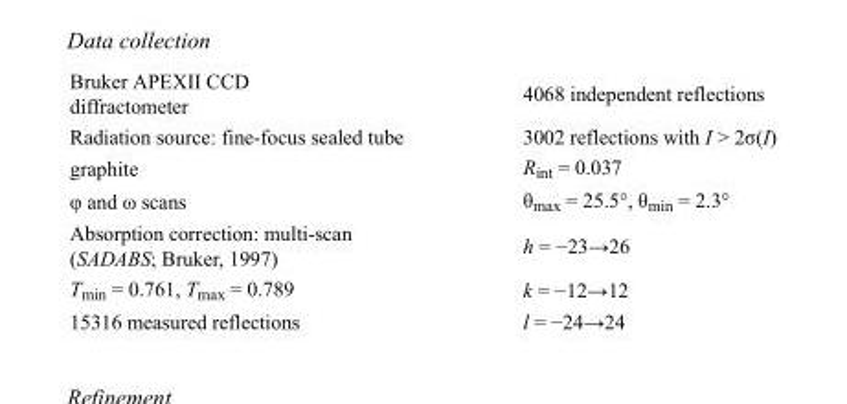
<table><tbody><tr><td>Bruker APEXII CCD diffractometer</td><td>4068 independent reflections</td></tr><tr><td>Radiation source: fine-focus sealed tube</td><td>3002 reflections with I &gt; 2σ(I)</td></tr><tr><td>graphite</td><td>R<sub>int</sub> = 0.037</td></tr><tr><td>φ and ω scans</td><td>θ<sub>max</sub> = 25.5°, θ<sub>min</sub> = 2.3°</td></tr><tr><td>Absorption correction: multi-scan (SADABS; Bruker, 1997)</td><td>h = −23→26</td></tr><tr><td>T<sub>min</sub> = 0.761, T<sub>max</sub> = 0.789</td><td>k = −12→12</td></tr><tr><td>15316 measured reflections</td><td>l = −24→24</td></tr></tbody></table>